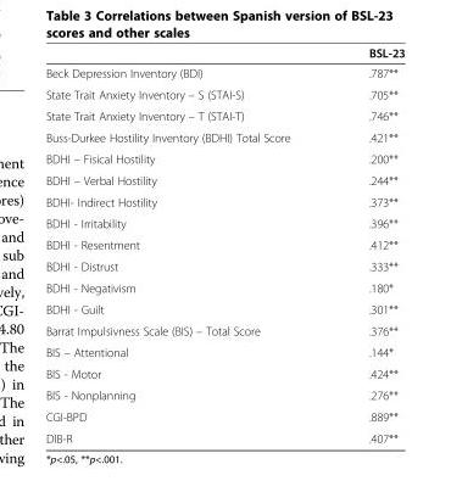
<table><thead><tr><td></td><td>BSL-23</td></tr></thead><tbody><tr><td>Beck Depression Inventory (BDI)</td><td>.787**</td></tr><tr><td>State Trait Anxiety Inventory – S (STAI-S)</td><td>.705**</td></tr><tr><td>State Trait Anxiety Inventory – T (STAI-T)</td><td>.746**</td></tr><tr><td>Buss-Durkee Hostility Inventory (BDHI) Total Score</td><td>.421**</td></tr><tr><td>BDHI – Fisical Hostility</td><td>.200**</td></tr><tr><td>BDHI – Verbal Hostility</td><td>.244**</td></tr><tr><td>BDHI- Indirect Hostility</td><td>.373**</td></tr><tr><td>BDHI - Irritability</td><td>.396**</td></tr><tr><td>BDHI - Resentment</td><td>.412**</td></tr><tr><td>BDHI - Distrust</td><td>.333**</td></tr><tr><td>BDHI - Negativism</td><td>.180*</td></tr><tr><td>BDHI - Guilt</td><td>.301**</td></tr><tr><td>Barrat Impulsivness Scale (BIS) – Total Score</td><td>.376**</td></tr><tr><td>BIS – Attentional</td><td>.144*</td></tr><tr><td>BIS - Motor</td><td>.424**</td></tr><tr><td>BIS - Nonplanning</td><td>.276**</td></tr><tr><td>CGI-BPD</td><td>.889**</td></tr><tr><td>DIB-R</td><td>.407**</td></tr></tbody></table>